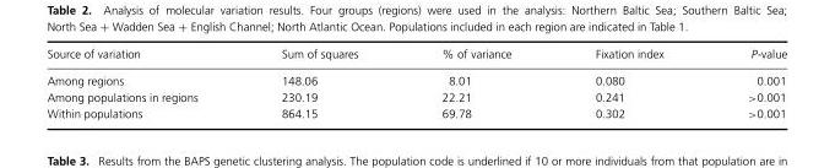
<table><thead><tr><td>Source of variation</td><td>Sum of squares</td><td>% of variance</td><td>Fixation index</td><td>P-value</td></tr></thead><tbody><tr><td>Among regions</td><td>148.06</td><td>8.01</td><td>0.080</td><td>0.001</td></tr><tr><td>Among populations in regions</td><td>230.19</td><td>22.21</td><td>0.241</td><td>&gt;0.001</td></tr><tr><td>Within populations</td><td>864.15</td><td>69.78</td><td>0.302</td><td>&gt;0.001</td></tr></tbody></table>